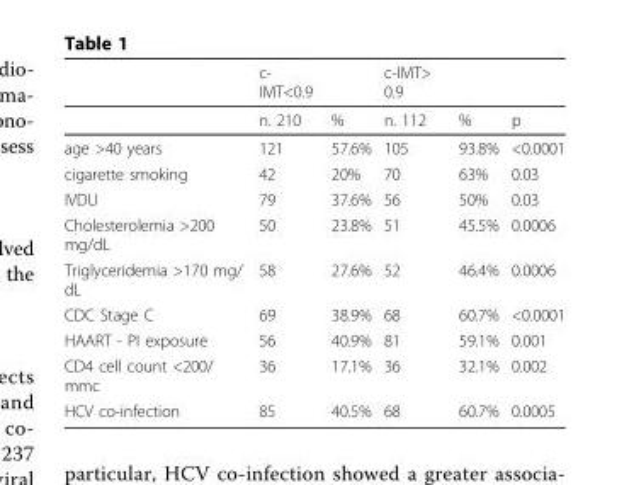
<table><thead><tr><td></td><td>c- IMT&lt;0.9</td><td></td><td>c-IMT&gt; 0.9</td><td></td><td></td></tr></thead><tbody><tr><td></td><td>n. 210</td><td>%</td><td>n. 112</td><td>%</td><td>p</td></tr><tr><td>age &gt;40 years</td><td>121</td><td>57.6%</td><td>105</td><td>93.8%</td><td>&lt;0.0001</td></tr><tr><td>cigarette smoking</td><td>42</td><td>20%</td><td>70</td><td>63%</td><td>0.03</td></tr><tr><td>IVDU</td><td>79</td><td>37.6%</td><td>56</td><td>50%</td><td>0.03</td></tr><tr><td>Cholesterolemia &gt;200 mg/dL</td><td>50</td><td>23.8%</td><td>51</td><td>45.5%</td><td>0.0006</td></tr><tr><td>Triglyceridemia &gt;170 mg/ dL</td><td>58</td><td>27.6%</td><td>52</td><td>46.4%</td><td>0.0006</td></tr><tr><td>CDC Stage C</td><td>69</td><td>38.9%</td><td>68</td><td>60.7%</td><td>&lt;0.0001</td></tr><tr><td>HAART - PI exposure</td><td>56</td><td>40.9%</td><td>81</td><td>59.1%</td><td>0.001</td></tr><tr><td>CD4 cell count &lt;200/ mmc</td><td>36</td><td>17.1%</td><td>36</td><td>32.1%</td><td>0.002</td></tr><tr><td>HCV co-infection</td><td>85</td><td>40.5%</td><td>68</td><td>60.7%</td><td>0.0005</td></tr></tbody></table>